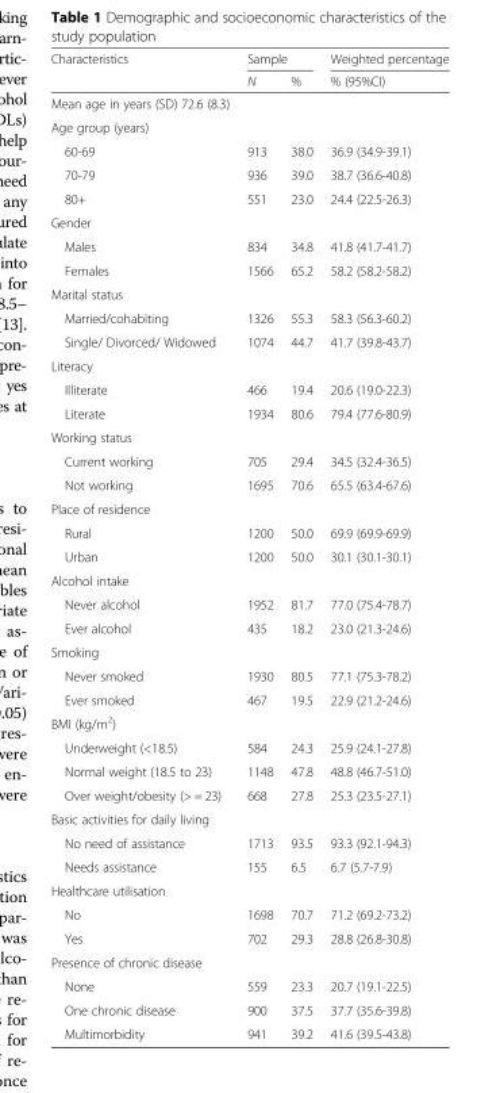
<table><thead><tr><td rowspan="2">Characteristics</td><td colspan="2">Sample</td><td rowspan="2">Weighted percentage % (95%CI)</td></tr><tr><td>N</td><td>%</td></tr></thead><tbody><tr><td colspan="4">Mean age in years (SD) 72.6 (8.3)</td></tr><tr><td colspan="4">Age group (years)</td></tr><tr><td>60-69</td><td>913</td><td>38.0</td><td>36.9 (34.9-39.1)</td></tr><tr><td>70-79</td><td>936</td><td>39.0</td><td>38.7 (36.6-40.8)</td></tr><tr><td>80+</td><td>551</td><td>23.0</td><td>24.4 (22.5-26.3)</td></tr><tr><td colspan="4">Gender</td></tr><tr><td>Males</td><td>834</td><td>34.8</td><td>41.8 (41.7-41.7)</td></tr><tr><td>Females</td><td>1566</td><td>65.2</td><td>58.2 (58.2-58.2)</td></tr><tr><td colspan="4">Marital status</td></tr><tr><td>Married/cohabiting</td><td>1326</td><td>55.3</td><td>58.3 (56.3-60.2)</td></tr><tr><td>Single/ Divorced/ Widowed</td><td>1074</td><td>44.7</td><td>41.7 (39.8-43.7)</td></tr><tr><td colspan="4">Literacy</td></tr><tr><td>Illiterate</td><td>466</td><td>19.4</td><td>20.6 (19.0-22.3)</td></tr><tr><td>Literate</td><td>1934</td><td>80.6</td><td>79.4 (77.6-80.9)</td></tr><tr><td colspan="4">Working status</td></tr><tr><td>Current working</td><td>705</td><td>29.4</td><td>34.5 (32.4-36.5)</td></tr><tr><td>Not working</td><td>1695</td><td>70.6</td><td>65.5 (63.4-67.6)</td></tr><tr><td colspan="4">Place of residence</td></tr><tr><td>Rural</td><td>1200</td><td>50.0</td><td>69.9 (69.9-69.9)</td></tr><tr><td>Urban</td><td>1200</td><td>50.0</td><td>30.1 (30.1-30.1)</td></tr><tr><td colspan="4">Alcohol intake</td></tr><tr><td>Never alcohol</td><td>1952</td><td>81.7</td><td>77.0 (75.4-78.7)</td></tr><tr><td>Ever alcohol</td><td>435</td><td>18.2</td><td>23.0 (21.3-24.6)</td></tr><tr><td colspan="4">Smoking</td></tr><tr><td>Never smoked</td><td>1930</td><td>80.5</td><td>77.1 (75.3-78.2)</td></tr><tr><td>Ever smoked</td><td>467</td><td>19.5</td><td>22.9 (21.2-24.6)</td></tr><tr><td colspan="4">BMI (kg/m<sup>2</sup>)</td></tr><tr><td>Underweight (&lt;18.5)</td><td>584</td><td>24.3</td><td>25.9 (24.1-27.8)</td></tr><tr><td>Normal weight (18.5 to 23)</td><td>1148</td><td>47.8</td><td>48.8 (46.7-51.0)</td></tr><tr><td>Over weight/obesity (&gt; = 23)</td><td>668</td><td>27.8</td><td>25.3 (23.5-27.1)</td></tr><tr><td colspan="4">Basic activities for daily living</td></tr><tr><td>No need of assistance</td><td>1713</td><td>93.5</td><td>93.3 (92.1-94.3)</td></tr><tr><td>Needs assistance</td><td>155</td><td>6.5</td><td>6.7 (5.7-7.9)</td></tr><tr><td colspan="4">Healthcare utilisation</td></tr><tr><td>No</td><td>1698</td><td>70.7</td><td>71.2 (69.2-73.2)</td></tr><tr><td>Yes</td><td>702</td><td>29.3</td><td>28.8 (26.8-30.8)</td></tr><tr><td colspan="4">Presence of chronic disease</td></tr><tr><td>None</td><td>559</td><td>23.3</td><td>20.7 (19.1-22.5)</td></tr><tr><td>One chronic disease</td><td>900</td><td>37.5</td><td>37.7 (35.6-39.8)</td></tr><tr><td>Multimorbidity</td><td>941</td><td>39.2</td><td>41.6 (39.5-43.8)</td></tr></tbody></table>